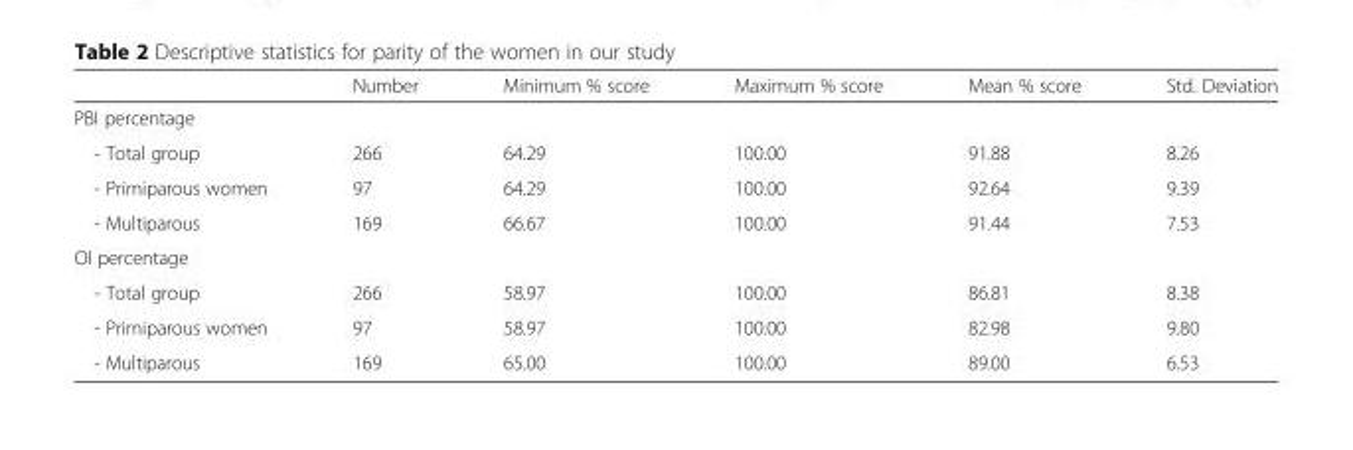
<table><thead><tr><td></td><td>Number</td><td>Minimum % score</td><td>Maximum % score</td><td>Mean % score</td><td>Std. Deviation</td></tr></thead><tbody><tr><td colspan="6">PBI percentage</td></tr><tr><td>- Total group</td><td>266</td><td>64.29</td><td>100.00</td><td>91.88</td><td>8.26</td></tr><tr><td>- Primiparous women</td><td>97</td><td>64.29</td><td>100.00</td><td>92.64</td><td>9.39</td></tr><tr><td>- Multiparous</td><td>169</td><td>66.67</td><td>100.00</td><td>91.44</td><td>7.53</td></tr><tr><td colspan="6">OI percentage</td></tr><tr><td>- Total group</td><td>266</td><td>58.97</td><td>100.00</td><td>86.81</td><td>8.38</td></tr><tr><td>- Primiparous women</td><td>97</td><td>58.97</td><td>100.00</td><td>82.98</td><td>9.80</td></tr><tr><td>- Multiparous</td><td>169</td><td>65.00</td><td>100.00</td><td>89.00</td><td>6.53</td></tr></tbody></table>